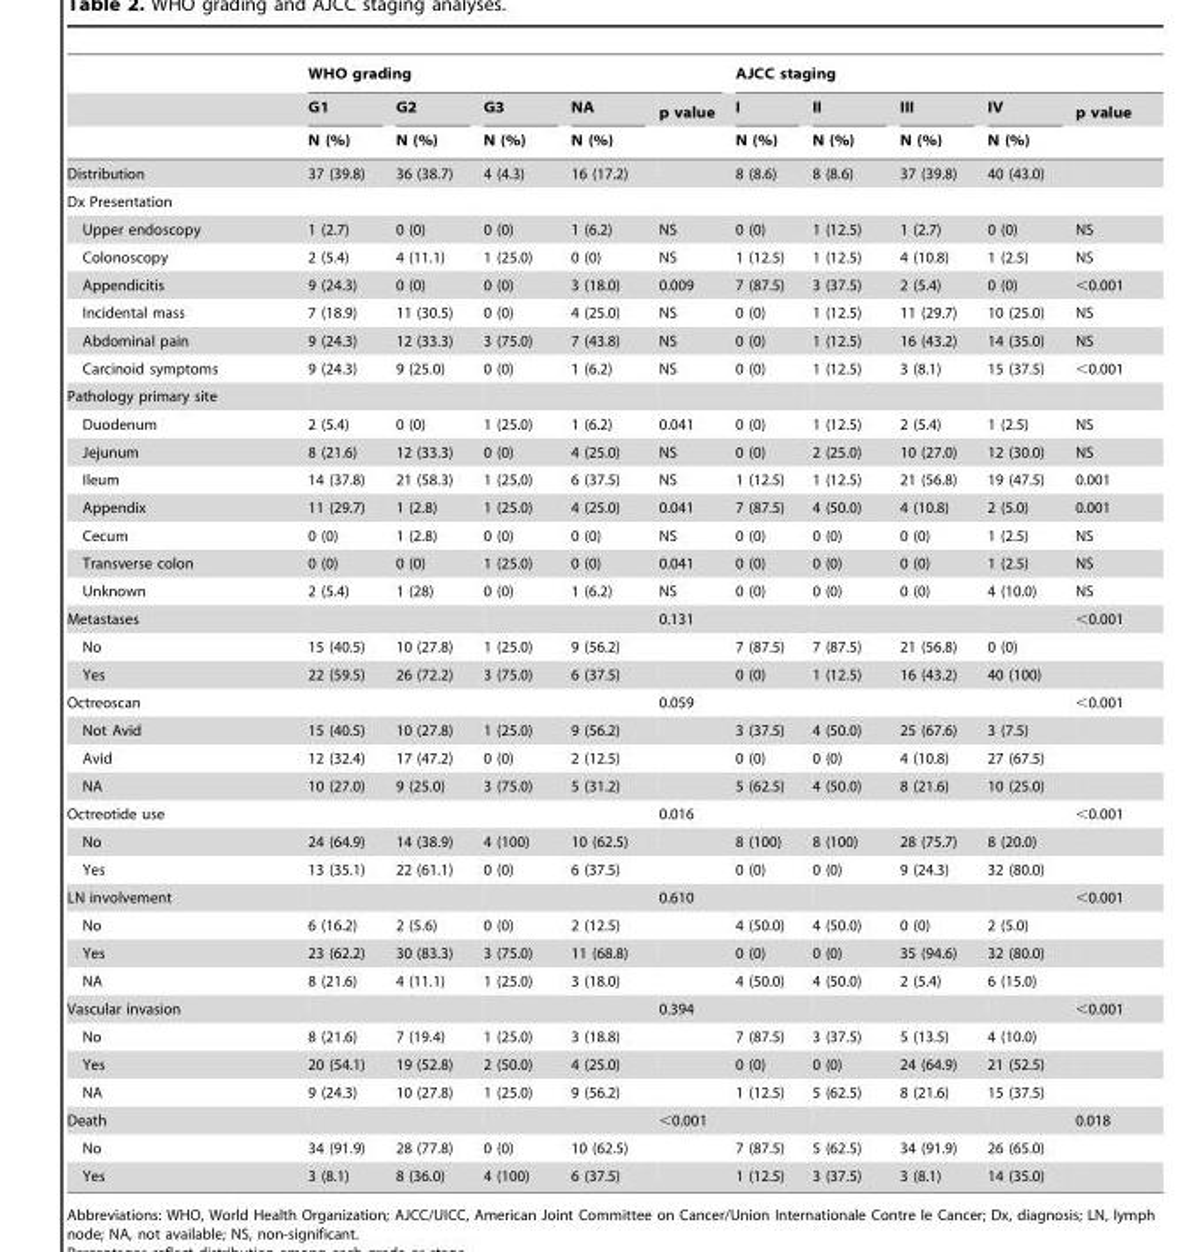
<table><thead><tr><td rowspan="3"></td><td colspan="5">WHO grading</td><td colspan="5">AJCC staging</td></tr><tr><td rowspan="2">G1 N (%)</td><td rowspan="2">G2 N (%)</td><td rowspan="2">G3 N (%)</td><td rowspan="2">NA N (%)</td><td rowspan="2">p value</td><td rowspan="2">I N (%)</td><td rowspan="2">II N (%)</td><td rowspan="2">III N (%)</td><td rowspan="2">IV N (%)</td><td rowspan="2">p value</td></tr><tr></tr></thead><tbody><tr><td>Distribution</td><td>37 (39.8)</td><td>36 (38.7)</td><td>4 (4.3)</td><td>16 (17.2)</td><td></td><td>8 (8.6)</td><td>8 (8.6)</td><td>37 (39.8)</td><td>40 (43.0)</td><td></td></tr><tr><td colspan="11">Dx Presentation</td></tr><tr><td>Upper endoscopy</td><td>1 (2.7)</td><td>0 (0)</td><td>0 (0)</td><td>1 (6.2)</td><td>NS</td><td>0 (0)</td><td>1 (12.5)</td><td>1 (2.7)</td><td>0 (0)</td><td>NS</td></tr><tr><td>Colonoscopy</td><td>2 (5.4)</td><td>4 (11.1)</td><td>1 (25.0)</td><td>0 (0)</td><td>NS</td><td>1 (12.5)</td><td>1 (12.5)</td><td>4 (10.8)</td><td>1 (2.5)</td><td>NS</td></tr><tr><td>Appendicitis</td><td>9 (24.3)</td><td>0 (0)</td><td>0 (0)</td><td>3 (18.0)</td><td>0.009</td><td>7 (87.5)</td><td>3 (37.5)</td><td>2 (5.4)</td><td>0 (0)</td><td>&lt;0.001</td></tr><tr><td>Incidental mass</td><td>7 (18.9)</td><td>11 (30.5)</td><td>0 (0)</td><td>4 (25.0)</td><td>NS</td><td>0 (0)</td><td>1 (12.5)</td><td>11 (29.7)</td><td>10 (25.0)</td><td>NS</td></tr><tr><td>Abdominal pain</td><td>9 (24.3)</td><td>12 (33.3)</td><td>3 (75.0)</td><td>7 (43.8)</td><td>NS</td><td>0 (0)</td><td>1 (12.5)</td><td>16 (43.2)</td><td>14 (35.0)</td><td>NS</td></tr><tr><td>Carcinoid symptoms</td><td>9 (24.3)</td><td>9 (25.0)</td><td>0 (0)</td><td>1 (6.2)</td><td>NS</td><td>0 (0)</td><td>1 (12.5)</td><td>3 (8.1)</td><td>15 (37.5)</td><td>&lt;0.001</td></tr><tr><td colspan="11">Pathology primary site</td></tr><tr><td>Duodenum</td><td>2 (5.4)</td><td>0 (0)</td><td>1 (25.0)</td><td>1 (6.2)</td><td>0.041</td><td>0 (0)</td><td>1 (12.5)</td><td>2 (5.4)</td><td>1 (2.5)</td><td>NS</td></tr><tr><td>Jejunum</td><td>8 (21.6)</td><td>12 (33.3)</td><td>0 (0)</td><td>4 (25.0)</td><td>NS</td><td>0 (0)</td><td>2 (25.0)</td><td>10 (27.0)</td><td>12 (30.0)</td><td>NS</td></tr><tr><td>Ileum</td><td>14 (37.8)</td><td>21 (58.3)</td><td>1 (25,0)</td><td>6 (37.5)</td><td>NS</td><td>1 (12.5)</td><td>1 (12.5)</td><td>21 (56.8)</td><td>19 (47.5)</td><td>0.001</td></tr><tr><td>Appendix</td><td>11 (29.7)</td><td>1 (2.8)</td><td>1 (25.0)</td><td>4 (25.0)</td><td>0.041</td><td>7 (87.5)</td><td>4 (50.0)</td><td>4 (10.8)</td><td>2 (5.0)</td><td>0.001</td></tr><tr><td>Cecum</td><td>0 (0)</td><td>1 (2.8)</td><td>0 (0)</td><td>0 (0)</td><td>NS</td><td>0 (0)</td><td>0 (0)</td><td>0 (0)</td><td>1 (2.5)</td><td>NS</td></tr><tr><td>Transverse colon</td><td>0 (0)</td><td>0 (0)</td><td>1 (25.0)</td><td>0 (0)</td><td>0.041</td><td>0 (0)</td><td>0 (0)</td><td>0 (0)</td><td>1 (2.5)</td><td>NS</td></tr><tr><td>Unknown</td><td>2 (5.4)</td><td>1 (28)</td><td>0 (0)</td><td>1 (6.2)</td><td>NS</td><td>0 (0)</td><td>0 (0)</td><td>0 (0)</td><td>4 (10.0)</td><td>NS</td></tr><tr><td>Metastases</td><td></td><td></td><td></td><td></td><td>0.131</td><td></td><td></td><td></td><td></td><td>&lt;0.001</td></tr><tr><td>No</td><td>15 (40.5)</td><td>10 (27.8)</td><td>1 (25.0)</td><td>9 (56.2)</td><td></td><td>7 (87.5)</td><td>7 (87.5)</td><td>21 (56.8)</td><td>0 (0)</td><td></td></tr><tr><td>Yes</td><td>22 (59.5)</td><td>26 (72.2)</td><td>3 (75.0)</td><td>6 (37.5)</td><td></td><td>0 (0)</td><td>1 (12.5)</td><td>16 (43.2)</td><td>40 (100)</td><td></td></tr><tr><td>Octreoscan</td><td></td><td></td><td></td><td></td><td>0.059</td><td></td><td></td><td></td><td></td><td>&lt;0.001</td></tr><tr><td>Not Avid</td><td>15 (40.5)</td><td>10 (27.8)</td><td>1 (25.0)</td><td>9 (56.2)</td><td></td><td>3 (37.5)</td><td>4 (50.0)</td><td>25 (67.6)</td><td>3 (7.5)</td><td></td></tr><tr><td>Avid</td><td>12 (32.4)</td><td>17 (47.2)</td><td>0 (0)</td><td>2 (12.5)</td><td></td><td>0 (0)</td><td>0 (0)</td><td>4 (10.8)</td><td>27 (67.5)</td><td></td></tr><tr><td>NA</td><td>10 (27.0)</td><td>9 (25.0)</td><td>3 (75.0)</td><td>5 (31.2)</td><td></td><td>5 (62.5)</td><td>4 (50.0)</td><td>8 (21.6)</td><td>10 (25.0)</td><td></td></tr><tr><td>Octreotide use</td><td></td><td></td><td></td><td></td><td>0.016</td><td></td><td></td><td></td><td></td><td>&lt;0.001</td></tr><tr><td>No</td><td>24 (64.9)</td><td>14 (38.9)</td><td>4 (100)</td><td>10 (62.5)</td><td></td><td>8 (100)</td><td>8 (100)</td><td>28 (75.7)</td><td>8 (20.0)</td><td></td></tr><tr><td>Yes</td><td>13 (35.1)</td><td>22 (61.1)</td><td>0 (0)</td><td>6 (37.5)</td><td></td><td>0 (0)</td><td>0 (0)</td><td>9 (24.3)</td><td>32 (80.0)</td><td></td></tr><tr><td>LN involvement</td><td></td><td></td><td></td><td></td><td>0.610</td><td></td><td></td><td></td><td></td><td>&lt;0.001</td></tr><tr><td>No</td><td>6 (16.2)</td><td>2 (5.6)</td><td>0 (0)</td><td>2 (12.5)</td><td></td><td>4 (50.0)</td><td>4 (50.0)</td><td>0 (0)</td><td>2 (5.0)</td><td></td></tr><tr><td>Yes</td><td>23 (62.2)</td><td>30 (83.3)</td><td>3 (75.0)</td><td>11 (68.8)</td><td></td><td>0 (0)</td><td>0 (0)</td><td>35 (94.6)</td><td>32 (80.0)</td><td></td></tr><tr><td>NA</td><td>8 (21.6)</td><td>4 (11.1)</td><td>1 (25.0)</td><td>3 (18.0)</td><td></td><td>4 (50.0)</td><td>4 (50.0)</td><td>2 (5.4)</td><td>6 (15.0)</td><td></td></tr><tr><td>Vascular invasion</td><td></td><td></td><td></td><td></td><td>0.394</td><td></td><td></td><td></td><td></td><td>&lt;0.001</td></tr><tr><td>No</td><td>8 (21.6)</td><td>7 (19.4)</td><td>1 (25.0)</td><td>3 (18.8)</td><td></td><td>7 (87.5)</td><td>3 (37.5)</td><td>5 (13.5)</td><td>4 (10.0)</td><td></td></tr><tr><td>Yes</td><td>20 (54.1)</td><td>19 (52.8)</td><td>2 (50.0)</td><td>4 (25.0)</td><td></td><td>0 (0)</td><td>0 (0)</td><td>24 (64.9)</td><td>21 (52.5)</td><td></td></tr><tr><td>NA</td><td>9 (24.3)</td><td>10 (27.8)</td><td>1 (25.0)</td><td>9 (56.2)</td><td></td><td>1 (12.5)</td><td>5 (62.5)</td><td>8 (21.6)</td><td>15 (37.5)</td><td></td></tr><tr><td>Death</td><td></td><td></td><td></td><td></td><td>&lt;0.001</td><td></td><td></td><td></td><td></td><td>0.018</td></tr><tr><td>No</td><td>34 (91.9)</td><td>28 (77.8)</td><td>0 (0)</td><td>10 (62.5)</td><td></td><td>7 (87.5)</td><td>5 (62.5)</td><td>34 (91.9)</td><td>26 (65.0)</td><td></td></tr><tr><td>Yes</td><td>3 (8.1)</td><td>8 (36.0)</td><td>4 (100)</td><td>6 (37.5)</td><td></td><td>1 (12.5)</td><td>3 (37.5)</td><td>3 (8.1)</td><td>14 (35.0)</td><td></td></tr></tbody></table>